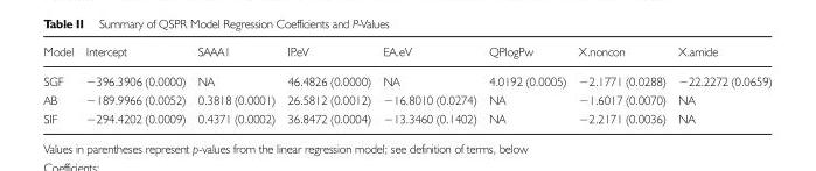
<table><thead><tr><td>Model</td><td>Intercept</td><td>SAAA1</td><td>IP.eV</td><td>EA.eV</td><td>QPlogPw</td><td>X.noncon</td><td>X.amide</td></tr></thead><tbody><tr><td>SGF</td><td>−396.3906 (0.0000)</td><td>NA</td><td>46.4826 (0.0000)</td><td>NA</td><td>4.0192 (0.0005)</td><td>−2.1771 (0.0288)</td><td>−22.2272 (0.0659)</td></tr><tr><td>AB</td><td>−189.9966 (0.0052)</td><td>0.3818 (0.0001)</td><td>26.5812 (0.0012)</td><td>−16.8010 (0.0274)</td><td>NA</td><td>−1.6017 (0.0070)</td><td>NA</td></tr><tr><td>SIF</td><td>−294.4202 (0.0009)</td><td>0.4371 (0.0002)</td><td>36.8472 (0.0004)</td><td>−13.3460 (0.1402)</td><td>NA</td><td>−2.2171 (0.0036)</td><td>NA</td></tr></tbody></table>